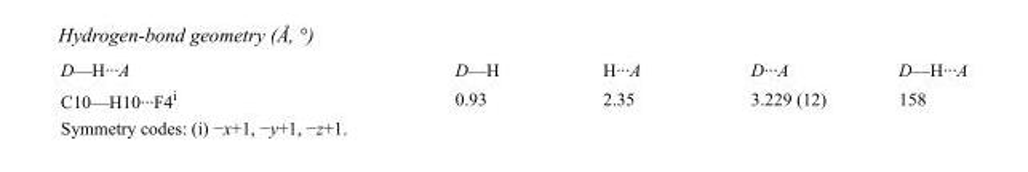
<table><tbody><tr><td>D—H···A</td><td>D—H</td><td>H···A</td><td>D···A</td><td>D—H···A</td></tr><tr><td>C10—H10···F4<sup>i</sup></td><td>0.93</td><td>2.35</td><td>3.229 (12)</td><td>158</td></tr></tbody></table>